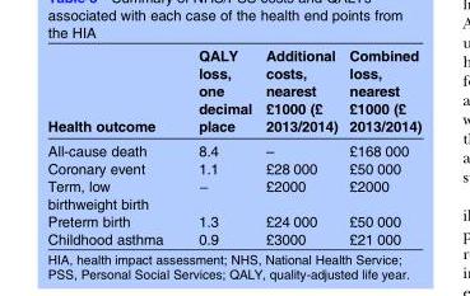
<table><thead><tr><td>Health outcome</td><td>QALY loss, one decimal place</td><td>Additional costs, nearest £1000 (£ 2013/2014)</td><td>Combined loss, nearest £1000 (£ 2013/2014)</td></tr></thead><tbody><tr><td>All-cause death</td><td>8.4</td><td>–</td><td>£168 000</td></tr><tr><td>Coronary event</td><td>1.1</td><td>£28 000</td><td>£50 000</td></tr><tr><td>Term, low birthweight birth</td><td>−</td><td>£2000</td><td>£2000</td></tr><tr><td>Preterm birth</td><td>1.3</td><td>£24 000</td><td>£50 000</td></tr><tr><td>Childhood asthma</td><td>0.9</td><td>£3000</td><td>£21 000</td></tr></tbody></table>